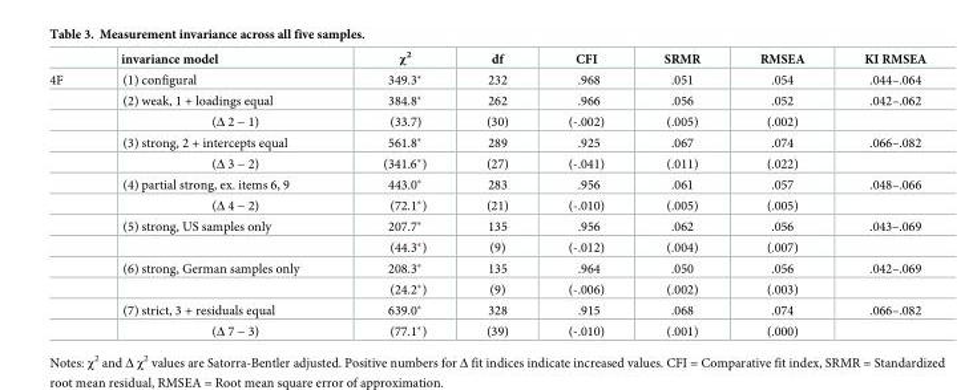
<table><thead><tr><td></td><td>invariance model</td><td>χ<sup>2</sup></td><td>df</td><td>CFI</td><td>SRMR</td><td>RMSEA</td><td>KI RMSEA</td></tr></thead><tbody><tr><td rowspan="13">4F</td><td>(1) configural</td><td>349.3*</td><td>232</td><td>.968</td><td>.051</td><td>.054</td><td>.044–.064</td></tr><tr><td>(2) weak, 1 + loadings equal</td><td>384.8*</td><td>262</td><td>.966</td><td>.056</td><td>.052</td><td>.042–.062</td></tr><tr><td>(Δ 2 − 1)</td><td>(33.7)</td><td>(30)</td><td>(-.002)</td><td>(.005)</td><td>(.002)</td><td></td></tr><tr><td>(3) strong, 2 + intercepts equal</td><td>561.8*</td><td>289</td><td>.925</td><td>.067</td><td>.074</td><td>.066–.082</td></tr><tr><td>(Δ 3 − 2)</td><td>(341.6*)</td><td>(27)</td><td>(-.041)</td><td>(.011)</td><td>(.022)</td><td></td></tr><tr><td>(4) partial strong, ex. items 6, 9</td><td>443.0*</td><td>283</td><td>.956</td><td>.061</td><td>.057</td><td>.048–.066</td></tr><tr><td>(Δ 4 − 2)</td><td>(72.1*)</td><td>(21)</td><td>(-.010)</td><td>(.005)</td><td>(.005)</td><td></td></tr><tr><td>(5) strong, US samples only</td><td>207.7*</td><td>135</td><td>.956</td><td>.062</td><td>.056</td><td>.043–.069</td></tr><tr><td></td><td>(44.3*)</td><td>(9)</td><td>(-.012)</td><td>(.004)</td><td>(.007)</td><td></td></tr><tr><td>(6) strong, German samples only</td><td>208.3*</td><td>135</td><td>.964</td><td>.050</td><td>.056</td><td>.042–.069</td></tr><tr><td></td><td>(24.2*)</td><td>(9)</td><td>(-.006)</td><td>(.002)</td><td>(.003)</td><td></td></tr><tr><td>(7) strict, 3 + residuals equal</td><td>639.0*</td><td>328</td><td>.915</td><td>.068</td><td>.074</td><td>.066–.082</td></tr><tr><td>(Δ 7 − 3)</td><td>(77.1*)</td><td>(39)</td><td>(-.010)</td><td>(.001)</td><td>(.000)</td><td></td></tr></tbody></table>